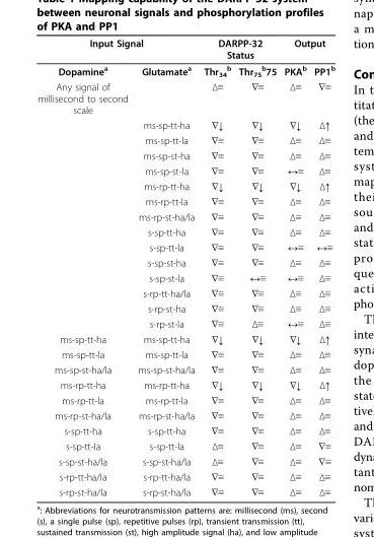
<table><thead><tr><td colspan="2">Input Signal</td><td colspan="2">DARPP-32 Status</td><td colspan="2">Output</td></tr><tr><td>Dopamine<sup>a</sup></td><td>Glutamate<sup>a</sup></td><td>Thr<sub>34</sub> <sup>b</sup></td><td>Thr<sub>75</sub> <sup>b</sup>75</td><td>PKA<sup>b</sup></td><td>PP1<sup>b</sup></td></tr></thead><tbody><tr><td rowspan="15">Any signal of millisecond to second scale</td><td></td><td>Δ≡</td><td>∇≡</td><td>Δ≡</td><td>∇≡</td></tr><tr><td>ms-sp-tt-ha</td><td>∇↓</td><td>∇↓</td><td>∇↓</td><td>Δ↑</td></tr><tr><td>ms-sp-tt-la</td><td>∇≡</td><td>∇≡</td><td>Δ≡</td><td>Δ≡</td></tr><tr><td>ms-sp-st-ha</td><td>∇≡</td><td>∇≡</td><td>Δ≡</td><td>Δ≡</td></tr><tr><td>ms-sp-st-la</td><td>∇≡</td><td>∇≡</td><td>↔≡</td><td>Δ≡</td></tr><tr><td>ms-rp-tt-ha</td><td>∇↓</td><td>∇↓</td><td>∇↓</td><td>Δ↑</td></tr><tr><td>ms-rp-tt-la</td><td>∇≡</td><td>∇≡</td><td>Δ≡</td><td>Δ≡</td></tr><tr><td>ms-rp-st-ha/la</td><td>∇≡</td><td>∇≡</td><td>Δ≡</td><td>Δ≡</td></tr><tr><td>s-sp-tt-ha</td><td>∇≡</td><td>∇≡</td><td>Δ≡</td><td>Δ≡</td></tr><tr><td>s-sp-tt-la</td><td>∇≡</td><td>∇≡</td><td>↔≡</td><td>↔≡</td></tr><tr><td>s-sp-st-ha</td><td>∇≡</td><td>∇≡</td><td>Δ≡</td><td>Δ≡</td></tr><tr><td>s-sp-st-la</td><td>∇≡</td><td>↔≡</td><td>↔≡</td><td>Δ≡</td></tr><tr><td>s-rp-tt-ha/la</td><td>∇≡</td><td>∇≡</td><td>Δ≡</td><td>Δ≡</td></tr><tr><td>s-rp-st-ha</td><td>∇≡</td><td>∇≡</td><td>Δ≡</td><td>Δ≡</td></tr><tr><td>s-rp-st-la</td><td>∇≡</td><td>Δ≡</td><td>↔≡</td><td>Δ≡</td></tr><tr><td>ms-sp-tt-ha</td><td>ms-sp-tt-ha</td><td>∇↓</td><td>∇↓</td><td>∇↓</td><td>Δ↑</td></tr><tr><td>ms-sp-tt-la</td><td>ms-sp-tt-la</td><td>∇≡</td><td>∇≡</td><td>Δ≡</td><td>Δ≡</td></tr><tr><td>ms-sp-st-ha/la</td><td>ms-sp-st-ha/la</td><td>∇≡</td><td>∇≡</td><td>Δ≡</td><td>Δ≡</td></tr><tr><td>ms-rp-tt-ha</td><td>ms-rp-tt-ha</td><td>∇↓</td><td>∇↓</td><td>∇↓</td><td>Δ↑</td></tr><tr><td>ms-rp-tt-la</td><td>ms-rp-tt-la</td><td>∇≡</td><td>∇≡</td><td>Δ≡</td><td>Δ≡</td></tr><tr><td>ms-rp-st-ha/la</td><td>ms-rp-st-ha/la</td><td>∇≡</td><td>∇≡</td><td>Δ≡</td><td>Δ≡</td></tr><tr><td>s-sp-tt-ha</td><td>s-sp-tt-ha</td><td>∇≡</td><td>∇≡</td><td>Δ≡</td><td>Δ≡</td></tr><tr><td>s-sp-tt-la</td><td>s-sp-tt-la</td><td>Δ≡</td><td>∇≡</td><td>Δ≡</td><td>∇≡</td></tr><tr><td>s-sp-st-ha/la</td><td>s-sp-st-ha/la</td><td>Δ≡</td><td>∇≡</td><td>Δ≡</td><td>∇≡</td></tr><tr><td>s-rp-tt-ha/la</td><td>s-rp-tt-ha/la</td><td>∇≡</td><td>∇≡</td><td>Δ≡</td><td>Δ≡</td></tr><tr><td>s-rp-st-ha/la</td><td>s-rp-st-ha/la</td><td>∇≡</td><td>∇≡</td><td>Δ≡</td><td>Δ≡</td></tr></tbody></table>